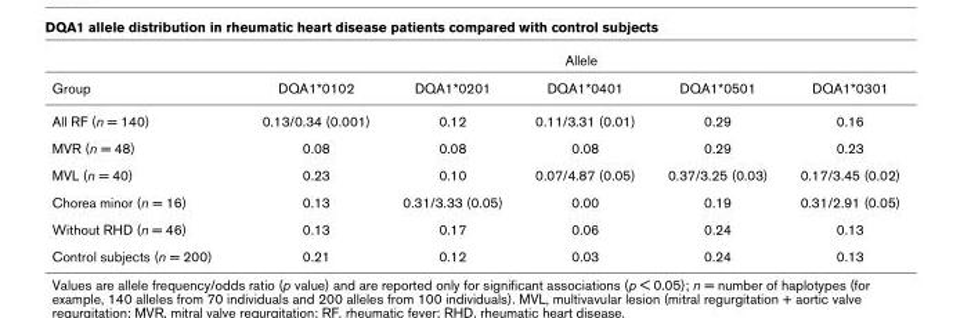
<table><thead><tr><td rowspan="2">Group</td><td colspan="5">Allele</td></tr><tr><td>DQA1*0102</td><td>DQA1*0201</td><td>DQA1*0401</td><td>DQA1*0501</td><td>DQA1*0301</td></tr></thead><tbody><tr><td>All RF (n = 140)</td><td>0.13/0.34 (0.001)</td><td>0.12</td><td>0.11/3.31 (0.01)</td><td>0.29</td><td>0.16</td></tr><tr><td>MVR (n = 48)</td><td>0.08</td><td>0.08</td><td>0.08</td><td>0.29</td><td>0.23</td></tr><tr><td>MVL (n = 40)</td><td>0.23</td><td>0.10</td><td>0.07/4.87 (0.05)</td><td>0.37/3.25 (0.03)</td><td>0.17/3.45 (0.02)</td></tr><tr><td>Chorea minor (n = 16)</td><td>0.13</td><td>0.31/3.33 (0.05)</td><td>0.00</td><td>0.19</td><td>0.31/2.91 (0.05)</td></tr><tr><td>Without RHD (n = 46)</td><td>0.13</td><td>0.17</td><td>0.06</td><td>0.24</td><td>0.13</td></tr><tr><td>Control subjects (n = 200)</td><td>0.21</td><td>0.12</td><td>0.03</td><td>0.24</td><td>0.13</td></tr></tbody></table>